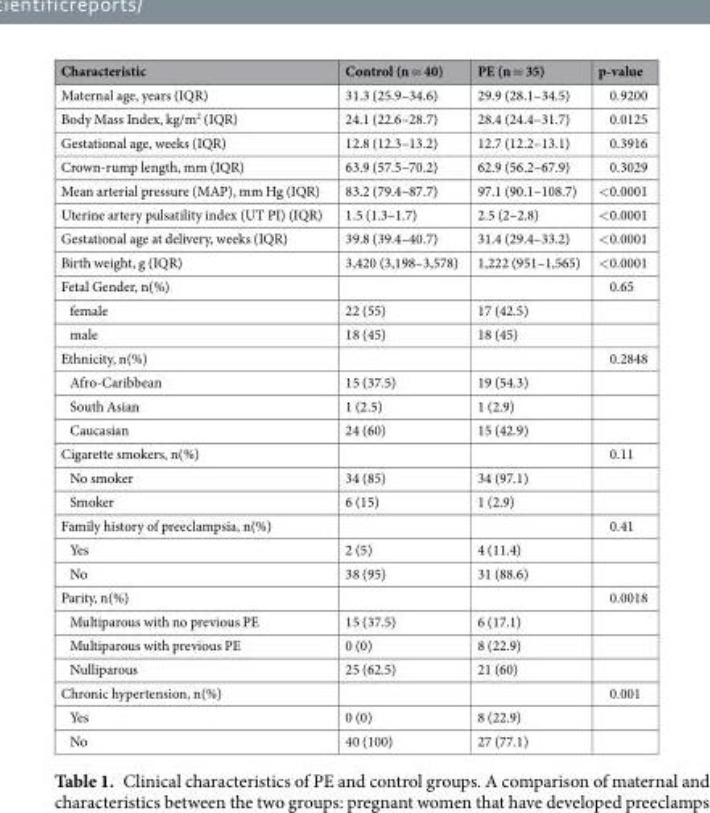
<table><thead><tr><td>Characteristic</td><td>Control (n = 40)</td><td>PE (n = 35)</td><td>p-value</td></tr></thead><tbody><tr><td>Maternal age, years (IQR)</td><td>31.3 (25.9–34.6)</td><td>29.9 (28.1–34.5)</td><td>0.9200</td></tr><tr><td>Body Mass Index, kg/m<sup>2</sup> (IQR)</td><td>24.1 (22.6–28.7)</td><td>28.4 (24.4–31.7)</td><td>0.0125</td></tr><tr><td>Gestational age, weeks (IQR)</td><td>12.8 (12.3–13.2)</td><td>12.7 (12.2–13.1)</td><td>0.3916</td></tr><tr><td>Crown-rump length, mm (IQR)</td><td>63.9 (57.5–70.2)</td><td>62.9 (56.2–67.9)</td><td>0.3029</td></tr><tr><td>Mean arterial pressure (MAP), mm Hg (IQR)</td><td>83.2 (79.4–87.7)</td><td>97.1 (90.1–108.7)</td><td>&lt;0.0001</td></tr><tr><td>Uterine artery pulsatility index (UT PI) (IQR)</td><td>1.5 (1.3–1.7)</td><td>2.5 (2–2.8)</td><td>&lt;0.0001</td></tr><tr><td>Gestational age at delivery, weeks (IQR)</td><td>39.8 (39.4–40.7)</td><td>31.4 (29.4–33.2)</td><td>&lt;0.0001</td></tr><tr><td>Birth weight, g (IQR)</td><td>3,420 (3,198–3,578)</td><td>1,222 (951–1,565)</td><td>&lt;0.0001</td></tr><tr><td>Fetal Gender, n(%)</td><td></td><td></td><td>0.65</td></tr><tr><td>female</td><td>22 (55)</td><td>17 (42.5)</td><td></td></tr><tr><td>male</td><td>18 (45)</td><td>18 (45)</td><td></td></tr><tr><td>Ethnicity, n(%)</td><td></td><td></td><td>0.2848</td></tr><tr><td>Afro-Caribbean</td><td>15 (37.5)</td><td>19 (54.3)</td><td></td></tr><tr><td>South Asian</td><td>1 (2.5)</td><td>1 (2.9)</td><td></td></tr><tr><td>Caucasian</td><td>24 (60)</td><td>15 (42.9)</td><td></td></tr><tr><td>Cigarette smokers, n(%)</td><td></td><td></td><td>0.11</td></tr><tr><td>No smoker</td><td>34 (85)</td><td>34 (97.1)</td><td></td></tr><tr><td>Smoker</td><td>6 (15)</td><td>1 (2.9)</td><td></td></tr><tr><td>Family history of preeclampsia, n(%)</td><td></td><td></td><td>0.41</td></tr><tr><td>Yes</td><td>2 (5)</td><td>4 (11.4)</td><td></td></tr><tr><td>No</td><td>38 (95)</td><td>31 (88.6)</td><td></td></tr><tr><td>Parity, n(%)</td><td></td><td></td><td>0.0018</td></tr><tr><td>Multiparous with no previous PE</td><td>15 (37.5)</td><td>6 (17.1)</td><td></td></tr><tr><td>Multiparous with previous PE</td><td>0 (0)</td><td>8 (22.9)</td><td></td></tr><tr><td>Nulliparous</td><td>25 (62.5)</td><td>21 (60)</td><td></td></tr><tr><td>Chronic hypertension, n(%)</td><td></td><td></td><td>0.001</td></tr><tr><td>Yes</td><td>0 (0)</td><td>8 (22.9)</td><td></td></tr><tr><td>No</td><td>40 (100)</td><td>27 (77.1)</td><td></td></tr></tbody></table>